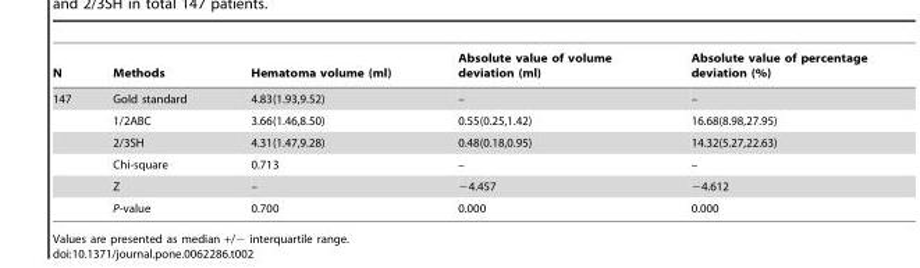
<table><thead><tr><td>N</td><td>Methods</td><td>Hematoma volume (ml)</td><td>Absolute value of volume deviation (ml)</td><td>Absolute value of percentage deviation (%)</td></tr></thead><tbody><tr><td rowspan="6">147</td><td>Gold standard</td><td>4.83(1.93,9.52)</td><td>–</td><td>–</td></tr><tr><td>1/2ABC</td><td>3.66(1.46,8.50)</td><td>0.55(0.25,1.42)</td><td>16.68(8.98,27.95)</td></tr><tr><td>2/3SH</td><td>4.31(1.47,9.28)</td><td>0.48(0.18,0.95)</td><td>14.32(5.27,22.63)</td></tr><tr><td>Chi-square</td><td>0.713</td><td>–</td><td>–</td></tr><tr><td>Z</td><td>–</td><td>−4.457</td><td>−4.612</td></tr><tr><td>P-value</td><td>0.700</td><td>0.000</td><td>0.000</td></tr></tbody></table>